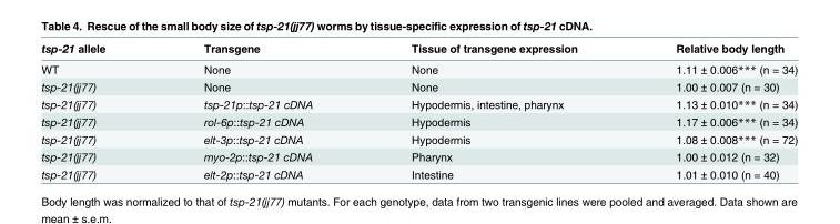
<table><thead><tr><td>tsp-21 allele</td><td>Transgene</td><td>Tissue of transgene expression</td><td>Relative body length</td></tr></thead><tbody><tr><td>WT</td><td>None</td><td>None</td><td>1.11 ± 0.006*** (n = 34)</td></tr><tr><td>tsp-21(jj77)</td><td>None</td><td>None</td><td>1.00 ± 0.007 (n = 30)</td></tr><tr><td>tsp-21(jj77)</td><td>tsp-21p::tsp-21 cDNA</td><td>Hypodermis, intestine, pharynx</td><td>1.13 ± 0.010*** (n = 34)</td></tr><tr><td>tsp-21(jj77)</td><td>rol-6p::tsp-21 cDNA</td><td>Hypodermis</td><td>1.17 ± 0.006*** (n = 34)</td></tr><tr><td>tsp-21(jj77)</td><td>elt-3p::tsp-21 cDNA</td><td>Hypodermis</td><td>1.08 ± 0.008*** (n = 72)</td></tr><tr><td>tsp-21(jj77)</td><td>myo-2p::tsp-21 cDNA</td><td>Pharynx</td><td>1.00 ± 0.012 (n = 32)</td></tr><tr><td>tsp-21(jj77)</td><td>elt-2p::tsp-21 cDNA</td><td>Intestine</td><td>1.01 ± 0.010 (n = 40)</td></tr></tbody></table>